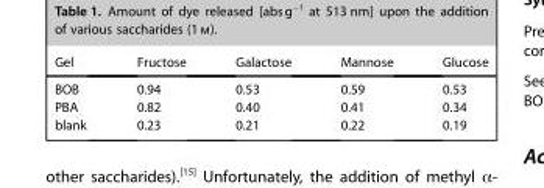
<table><thead><tr><td>Gel</td><td>Fructose</td><td>Galactose</td><td>Mannose</td><td>Glucose</td></tr></thead><tbody><tr><td>BOB</td><td>0.94</td><td>0.53</td><td>0.59</td><td>0.53</td></tr><tr><td>PBA</td><td>0.82</td><td>0.40</td><td>0.41</td><td>0.34</td></tr><tr><td>blank</td><td>0.23</td><td>0.21</td><td>0.22</td><td>0.19</td></tr></tbody></table>